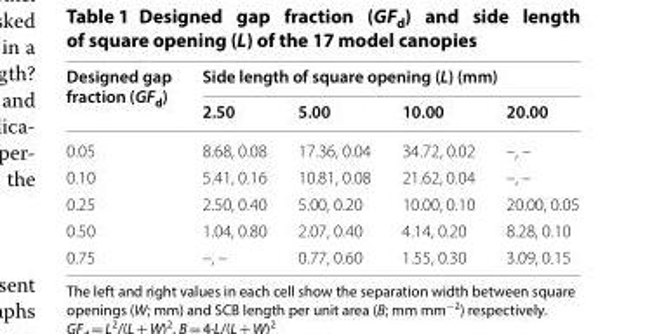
<table><thead><tr><td rowspan="2">Designed gap fraction (GF<sub>d</sub>)</td><td colspan="4">Side length of square opening (L) (mm)</td></tr><tr><td>2.50</td><td>5.00</td><td>10.00</td><td>20.00</td></tr></thead><tbody><tr><td>0.05</td><td>8.68, 0.08</td><td>17.36, 0.04</td><td>34.72, 0.02</td><td>–, –</td></tr><tr><td>0.10</td><td>5.41, 0.16</td><td>10.81, 0.08</td><td>21.62, 0.04</td><td>–, –</td></tr><tr><td>0.25</td><td>2.50, 0.40</td><td>5.00, 0.20</td><td>10.00, 0.10</td><td>20.00, 0.05</td></tr><tr><td>0.50</td><td>1.04, 0.80</td><td>2.07, 0.40</td><td>4.14, 0.20</td><td>8.28, 0.10</td></tr><tr><td>0.75</td><td>–, –</td><td>0.77, 0.60</td><td>1.55, 0.30</td><td>3.09, 0.15</td></tr></tbody></table>